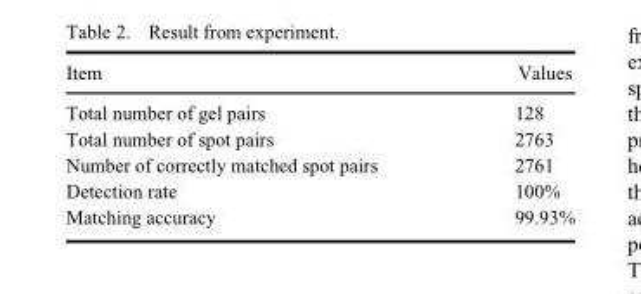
<table><thead><tr><td>Item</td><td>Values</td></tr></thead><tbody><tr><td>Total number of gel pairs</td><td>128</td></tr><tr><td>Total number of spot pairs</td><td>2763</td></tr><tr><td>Number of correctly matched spot pairs</td><td>2761</td></tr><tr><td>Detection rate</td><td>100%</td></tr><tr><td>Matching accuracy</td><td>99.93%</td></tr></tbody></table>